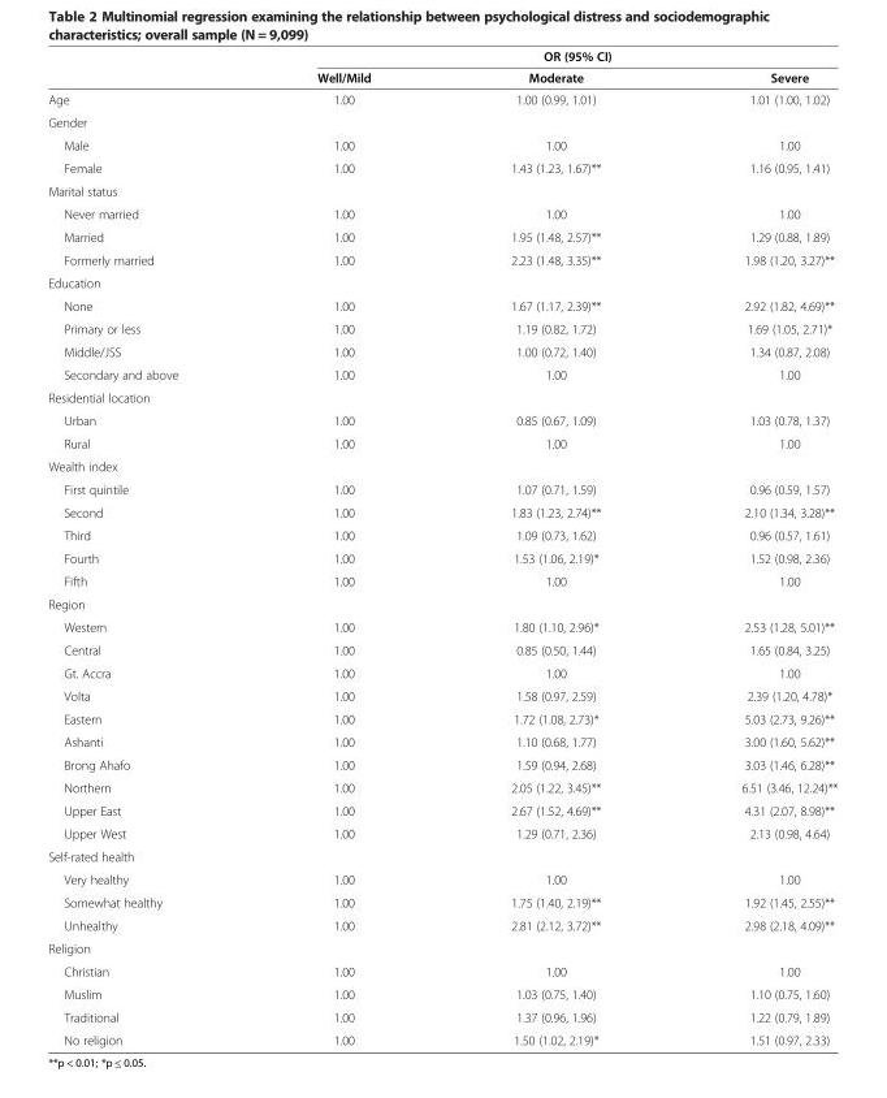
<table><thead><tr><td rowspan="2"></td><td colspan="3">OR (95% CI)</td></tr><tr><td>Well/Mild</td><td>Moderate</td><td>Severe</td></tr></thead><tbody><tr><td>Age</td><td>1.00</td><td>1.00 (0.99, 1.01)</td><td>1.01 (1.00, 1.02)</td></tr><tr><td colspan="4">Gender</td></tr><tr><td>Male</td><td>1.00</td><td>1.00</td><td>1.00</td></tr><tr><td>Female</td><td>1.00</td><td>1.43 (1.23, 1.67)**</td><td>1.16 (0.95, 1.41)</td></tr><tr><td colspan="4">Marital status</td></tr><tr><td>Never married</td><td>1.00</td><td>1.00</td><td>1.00</td></tr><tr><td>Married</td><td>1.00</td><td>1.95 (1.48, 2.57)**</td><td>1.29 (0.88, 1.89)</td></tr><tr><td>Formerly married</td><td>1.00</td><td>2.23 (1.48, 3.35)**</td><td>1.98 (1.20, 3.27)**</td></tr><tr><td colspan="4">Education</td></tr><tr><td>None</td><td>1.00</td><td>1.67 (1.17, 2.39)**</td><td>2.92 (1.82, 4.69)**</td></tr><tr><td>Primary or less</td><td>1.00</td><td>1.19 (0.82, 1.72)</td><td>1.69 (1.05, 2.71)*</td></tr><tr><td>Middle/JSS</td><td>1.00</td><td>1.00 (0.72, 1.40)</td><td>1.34 (0.87, 2.08)</td></tr><tr><td>Secondary and above</td><td>1.00</td><td>1.00</td><td>1.00</td></tr><tr><td colspan="4">Residential location</td></tr><tr><td>Urban</td><td>1.00</td><td>0.85 (0.67, 1.09)</td><td>1.03 (0.78, 1.37)</td></tr><tr><td>Rural</td><td>1.00</td><td>1.00</td><td>1.00</td></tr><tr><td colspan="4">Wealth index</td></tr><tr><td>First quintile</td><td>1.00</td><td>1.07 (0.71, 1.59)</td><td>0.96 (0.59, 1.57)</td></tr><tr><td>Second</td><td>1.00</td><td>1.83 (1.23, 2.74)**</td><td>2.10 (1.34, 3.28)**</td></tr><tr><td>Third</td><td>1.00</td><td>1.09 (0.73, 1.62)</td><td>0.96 (0.57, 1.61)</td></tr><tr><td>Fourth</td><td>1.00</td><td>1.53 (1.06, 2.19)*</td><td>1.52 (0.98, 2.36)</td></tr><tr><td>Fifth</td><td>1.00</td><td>1.00</td><td>1.00</td></tr><tr><td colspan="4">Region</td></tr><tr><td>Western</td><td>1.00</td><td>1.80 (1.10, 2.96)*</td><td>2.53 (1.28, 5.01)**</td></tr><tr><td>Central</td><td>1.00</td><td>0.85 (0.50, 1.44)</td><td>1.65 (0.84, 3.25)</td></tr><tr><td>Gt. Accra</td><td>1.00</td><td>1.00</td><td>1.00</td></tr><tr><td>Volta</td><td>1.00</td><td>1.58 (0.97, 2.59)</td><td>2.39 (1.20, 4.78)*</td></tr><tr><td>Eastern</td><td>1.00</td><td>1.72 (1.08, 2.73)*</td><td>5.03 (2.73, 9.26)**</td></tr><tr><td>Ashanti</td><td>1.00</td><td>1.10 (0.68, 1.77)</td><td>3.00 (1.60, 5.62)**</td></tr><tr><td>Brong Ahafo</td><td>1.00</td><td>1.59 (0.94, 2.68)</td><td>3.03 (1.46, 6.28)**</td></tr><tr><td>Northern</td><td>1.00</td><td>2.05 (1.22, 3.45)**</td><td>6.51 (3.46, 12.24)**</td></tr><tr><td>Upper East</td><td>1.00</td><td>2.67 (1.52, 4.69)**</td><td>4.31 (2.07, 8.98)**</td></tr><tr><td>Upper West</td><td>1.00</td><td>1.29 (0.71, 2.36)</td><td>2.13 (0.98, 4.64)</td></tr><tr><td colspan="4">Self-rated health</td></tr><tr><td>Very healthy</td><td>1.00</td><td>1.00</td><td>1.00</td></tr><tr><td>Somewhat healthy</td><td>1.00</td><td>1.75 (1.40, 2.19)**</td><td>1.92 (1.45, 2.55)**</td></tr><tr><td>Unhealthy</td><td>1.00</td><td>2.81 (2.12, 3.72)**</td><td>2.98 (2.18, 4.09)**</td></tr><tr><td colspan="4">Religion</td></tr><tr><td>Christian</td><td>1.00</td><td>1.00</td><td>1.00</td></tr><tr><td>Muslim</td><td>1.00</td><td>1.03 (0.75, 1.40)</td><td>1.10 (0.75, 1.60)</td></tr><tr><td>Traditional</td><td>1.00</td><td>1.37 (0.96, 1.96)</td><td>1.22 (0.79, 1.89)</td></tr><tr><td>No religion</td><td>1.00</td><td>1.50 (1.02, 2.19)*</td><td>1.51 (0.97, 2.33)</td></tr></tbody></table>